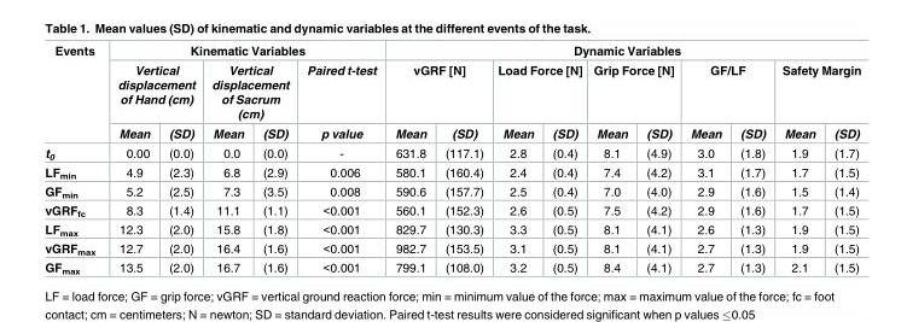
<table><thead><tr><td rowspan="3">Events</td><td colspan="5">Kinematic Variables</td><td colspan="10">Dynamic Variables</td></tr><tr><td colspan="2">Vertical displacement of Hand (cm)</td><td colspan="2">Vertical displacement of Sacrum (cm)</td><td rowspan="2">Paired t-test p value</td><td colspan="2">vGRF [N]</td><td colspan="2">Load Force [N]</td><td colspan="2">Grip Force [N]</td><td colspan="2">GF/LF</td><td colspan="2">Safety Margin</td></tr><tr><td>Mean</td><td>(SD)</td><td>Mean</td><td>(SD)</td><td>Mean</td><td>(SD)</td><td>Mean</td><td>(SD)</td><td>Mean</td><td>(SD)</td><td>Mean</td><td>(SD)</td><td>Mean</td><td>(SD)</td></tr></thead><tbody><tr><td>t<sub>0</sub></td><td>0.00</td><td>(0.0)</td><td>0.0</td><td>(0.0)</td><td>-</td><td>631.8</td><td>(117.1)</td><td>2.8</td><td>(0.4)</td><td>8.1</td><td>(4.9)</td><td>3.0</td><td>(1.8)</td><td>1.9</td><td>(1.7)</td></tr><tr><td>LF<sub>min</sub></td><td>4.9</td><td>(2.3)</td><td>6.8</td><td>(2.9)</td><td>0.006</td><td>580.1</td><td>(160.4)</td><td>2.4</td><td>(0.4)</td><td>7.4</td><td>(4.2)</td><td>3.1</td><td>(1.7)</td><td>1.7</td><td>(1.5)</td></tr><tr><td>GF<sub>min</sub></td><td>5.2</td><td>(2.5)</td><td>7.3</td><td>(3.5)</td><td>0.008</td><td>590.6</td><td>(157.7)</td><td>2.5</td><td>(0.4)</td><td>7.0</td><td>(4.0)</td><td>2.9</td><td>(1.6)</td><td>1.5</td><td>(1.4)</td></tr><tr><td>vGRF<sub>fc</sub></td><td>8.3</td><td>(1.4)</td><td>11.1</td><td>(1.1)</td><td>&lt;0.001</td><td>560.1</td><td>(152.3)</td><td>2.6</td><td>(0.5)</td><td>7.5</td><td>(4.2)</td><td>2.9</td><td>(1.6)</td><td>1.7</td><td>(1.5)</td></tr><tr><td>LF<sub>max</sub></td><td>12.3</td><td>(2.0)</td><td>15.8</td><td>(1.8)</td><td>&lt;0.001</td><td>829.7</td><td>(130.3)</td><td>3.3</td><td>(0.5)</td><td>8.1</td><td>(4.1)</td><td>2.6</td><td>(1.3)</td><td>1.9</td><td>(1.5)</td></tr><tr><td>vGRF<sub>max</sub></td><td>12.7</td><td>(2.0)</td><td>16.4</td><td>(1.6)</td><td>&lt;0.001</td><td>982.7</td><td>(153.5)</td><td>3.1</td><td>(0.5)</td><td>8.1</td><td>(4.1)</td><td>2.7</td><td>(1.3)</td><td>1.9</td><td>(1.5)</td></tr><tr><td>GF<sub>max</sub></td><td>13.5</td><td>(2.0)</td><td>16.7</td><td>(1.6)</td><td>&lt;0.001</td><td>799.1</td><td>(108.0)</td><td>3.2</td><td>(0.5)</td><td>8.4</td><td>(4.1)</td><td>2.7</td><td>(1.3)</td><td>2.1</td><td>(1.5)</td></tr></tbody></table>